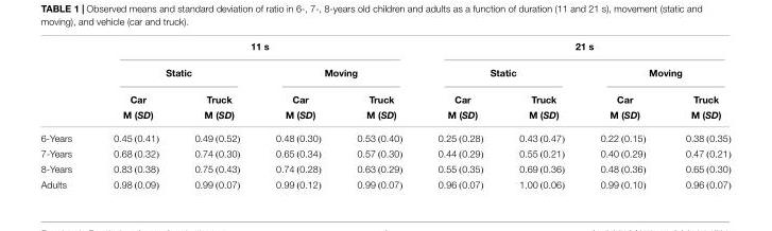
<table><thead><tr><td rowspan="4"></td><td colspan="4">11 s</td><td colspan="4">21 s</td></tr><tr><td colspan="2">Static</td><td colspan="2">Moving</td><td colspan="2">Static</td><td colspan="2">Moving</td></tr><tr><td rowspan="2">Car M (SD)</td><td rowspan="2">Truck M (SD)</td><td rowspan="2">Car M (SD)</td><td rowspan="2">Truck M (SD)</td><td rowspan="2">Car M (SD)</td><td rowspan="2">Truck M (SD)</td><td rowspan="2">Car M (SD)</td><td rowspan="2">Truck M (SD)</td></tr><tr></tr></thead><tbody><tr><td>6-Years</td><td>0.45 (0.41)</td><td>0.49 (0.52)</td><td>0.48 (0.30)</td><td>0.53 (0.40)</td><td>0.25 (0.28)</td><td>0.43 (0.47)</td><td>0.22 (0.15)</td><td>0.38 (0.35)</td></tr><tr><td>7-Years</td><td>0.68 (0.32)</td><td>0.74 (0.30)</td><td>0.65 (0.34)</td><td>0.57 (0.30)</td><td>0.44 (0.29)</td><td>0.55 (0.21)</td><td>0.40 (0.29)</td><td>0.47 (0.21)</td></tr><tr><td>8-Years</td><td>0.83 (0.38)</td><td>0.75 (0.43)</td><td>0.74 (0.28)</td><td>0.63 (0.29)</td><td>0.55 (0.35)</td><td>0.69 (0.36)</td><td>0.48 (0.36)</td><td>0.65 (0.30)</td></tr><tr><td>Adults</td><td>0.98 (0.09)</td><td>0.99 (0.07)</td><td>0.99 (0.12)</td><td>0.99 (0.07)</td><td>0.96 (0.07)</td><td>1.00 (0.06)</td><td>0.99 (0.10)</td><td>0.96 (0.07)</td></tr></tbody></table>